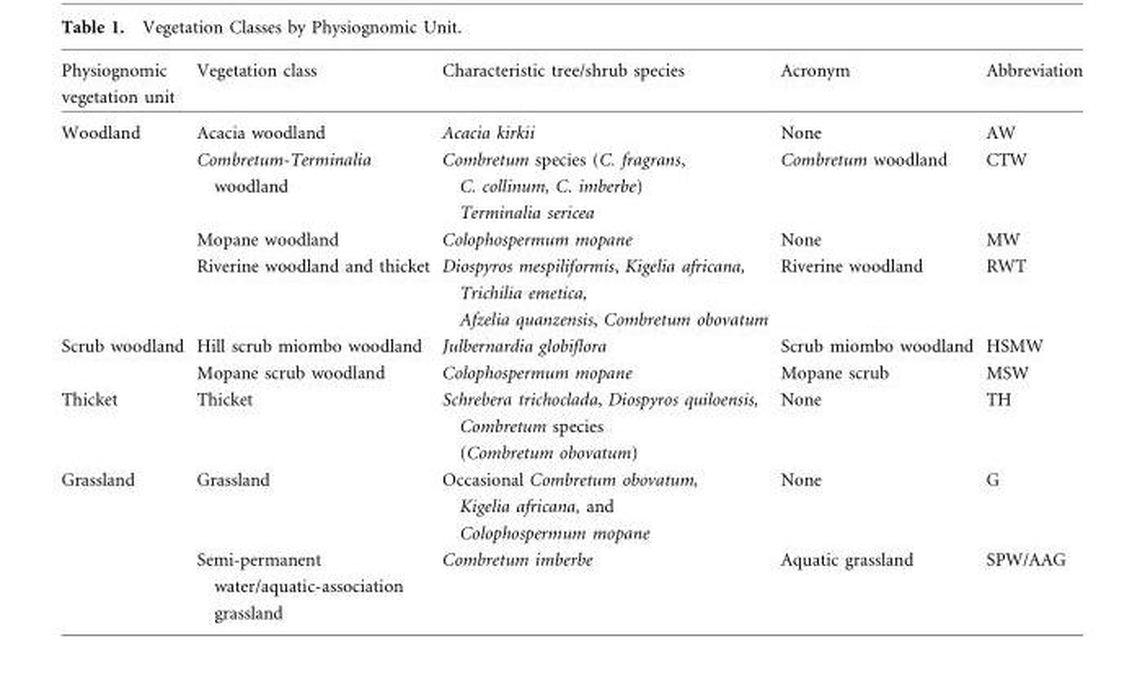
<table><thead><tr><td>Physiognomic vegetation unit</td><td>Vegetation class</td><td>Characteristic tree/shrub species</td><td>Acronym</td><td>Abbreviation</td></tr></thead><tbody><tr><td rowspan="4">Woodland</td><td>Acacia woodland</td><td>Acacia kirkii</td><td>None</td><td>AW</td></tr><tr><td>Combretum-Terminalia woodland</td><td>Combretum species (C. fragrans, C. collinum, C. imberbe) Terminalia sericea</td><td>Combretum woodland</td><td>CTW</td></tr><tr><td>Mopane woodland</td><td>Colophospermum mopane</td><td>None</td><td>MW</td></tr><tr><td>Riverine woodland and thicket</td><td>Diospyros mespiliformis, Kigelia africana, Trichilia emetica, Afzelia quanzensis, Combretum obovatum</td><td>Riverine woodland</td><td>RWT</td></tr><tr><td rowspan="2">Scrub woodland</td><td>Hill scrub miombo woodland</td><td>Julbernardia globiflora</td><td>Scrub miombo woodland</td><td>HSMW</td></tr><tr><td>Mopane scrub woodland</td><td>Colophospermum mopane</td><td>Mopane scrub</td><td>MSW</td></tr><tr><td>Thicket</td><td>Thicket</td><td>Schrebera trichoclada, Diospyros quiloensis, Combretum species (Combretum obovatum)</td><td>None</td><td>TH</td></tr><tr><td rowspan="2">Grassland</td><td>Grassland</td><td>Occasional Combretum obovatum, Kigelia africana, and Colophospermum mopane</td><td>None</td><td>G</td></tr><tr><td>Semi-permanent water/aquatic-association grassland</td><td>Combretum imberbe</td><td>Aquatic grassland</td><td>SPW/AAG</td></tr></tbody></table>